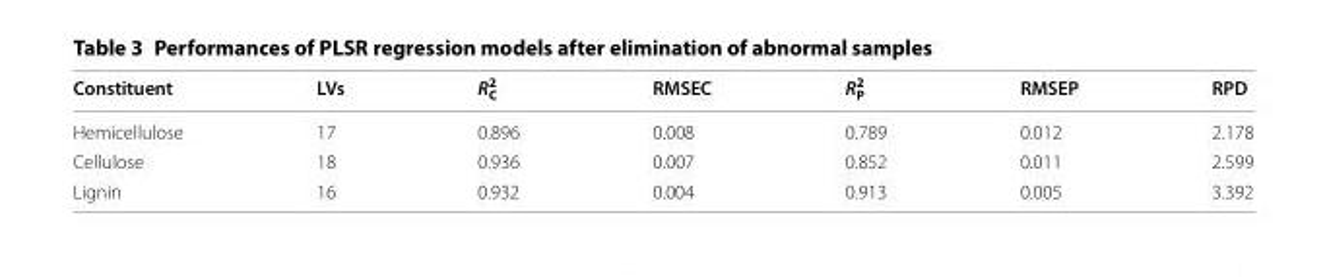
<table><thead><tr><td>Constituent</td><td>LVs</td><td>R<sub>C</sub> <sup>2</sup></td><td>RMSEC</td><td>R<sub>P</sub> <sup>2</sup></td><td>RMSEP</td><td>RPD</td></tr></thead><tbody><tr><td>Hemicellulose</td><td>17</td><td>0.896</td><td>0.008</td><td>0.789</td><td>0.012</td><td>2.178</td></tr><tr><td>Cellulose</td><td>18</td><td>0.936</td><td>0.007</td><td>0.852</td><td>0.011</td><td>2.599</td></tr><tr><td>Lignin</td><td>16</td><td>0.932</td><td>0.004</td><td>0.913</td><td>0.005</td><td>3.392</td></tr></tbody></table>